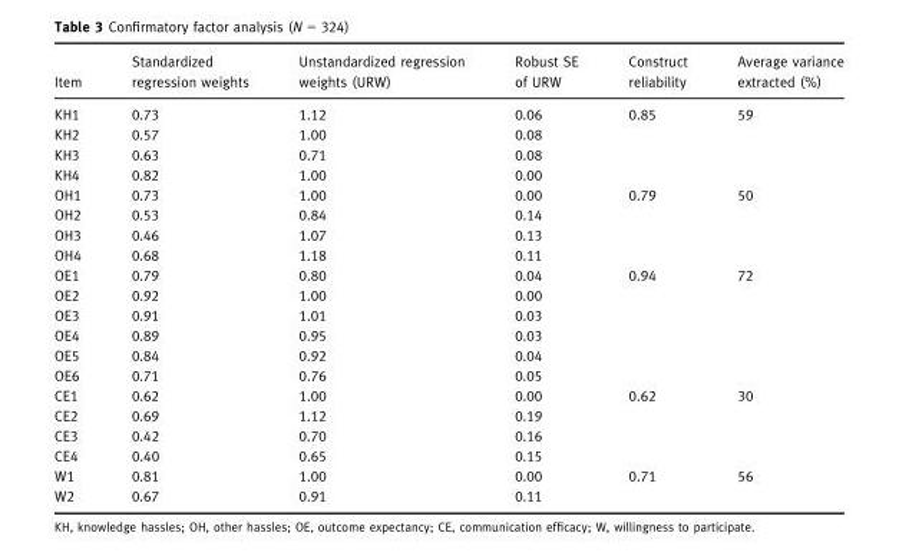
<table><thead><tr><td>Item</td><td>Standardized regression weights</td><td>Unstandardized regression weights (URW)</td><td>Robust SE of URW</td><td>Construct reliability</td><td>Average variance extracted (%)</td></tr></thead><tbody><tr><td>KH1</td><td>0.73</td><td>1.12</td><td>0.06</td><td rowspan="4">0.85</td><td rowspan="4">59</td></tr><tr><td>KH2</td><td>0.57</td><td>1.00</td><td>0.08</td></tr><tr><td>KH3</td><td>0.63</td><td>0.71</td><td>0.08</td></tr><tr><td>KH4</td><td>0.82</td><td>1.00</td><td>0.00</td></tr><tr><td>OH1</td><td>0.73</td><td>1.00</td><td>0.00</td><td rowspan="4">0.79</td><td rowspan="4">50</td></tr><tr><td>OH2</td><td>0.53</td><td>0.84</td><td>0.14</td></tr><tr><td>OH3</td><td>0.46</td><td>1.07</td><td>0.13</td></tr><tr><td>OH4</td><td>0.68</td><td>1.18</td><td>0.11</td></tr><tr><td>OE1</td><td>0.79</td><td>0.80</td><td>0.04</td><td rowspan="6">0.94</td><td rowspan="6">72</td></tr><tr><td>OE2</td><td>0.92</td><td>1.00</td><td>0.00</td></tr><tr><td>OE3</td><td>0.91</td><td>1.01</td><td>0.03</td></tr><tr><td>OE4</td><td>0.89</td><td>0.95</td><td>0.03</td></tr><tr><td>OE5</td><td>0.84</td><td>0.92</td><td>0.04</td></tr><tr><td>OE6</td><td>0.71</td><td>0.76</td><td>0.05</td></tr><tr><td>CE1</td><td>0.62</td><td>1.00</td><td>0.00</td><td rowspan="4">0.62</td><td rowspan="4">30</td></tr><tr><td>CE2</td><td>0.69</td><td>1.12</td><td>0.19</td></tr><tr><td>CE3</td><td>0.42</td><td>0.70</td><td>0.16</td></tr><tr><td>CE4</td><td>0.40</td><td>0.65</td><td>0.15</td></tr><tr><td>W1</td><td>0.81</td><td>1.00</td><td>0.00</td><td rowspan="2">0.71</td><td rowspan="2">56</td></tr><tr><td>W2</td><td>0.67</td><td>0.91</td><td>0.11</td></tr></tbody></table>